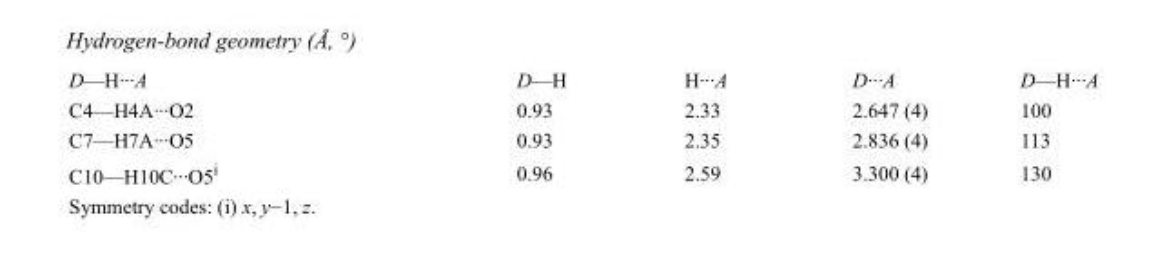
<table><tbody><tr><td>D—H···A</td><td>D—H</td><td>H···A</td><td>D···A</td><td>D—H···A</td></tr><tr><td>C4—H4A···O2</td><td>0.93</td><td>2.33</td><td>2.647 (4)</td><td>100</td></tr><tr><td>C7—H7A···O5</td><td>0.93</td><td>2.35</td><td>2.836 (4)</td><td>113</td></tr><tr><td>C10—H10C···O5<sup>i</sup></td><td>0.96</td><td>2.59</td><td>3.300 (4)</td><td>130</td></tr></tbody></table>